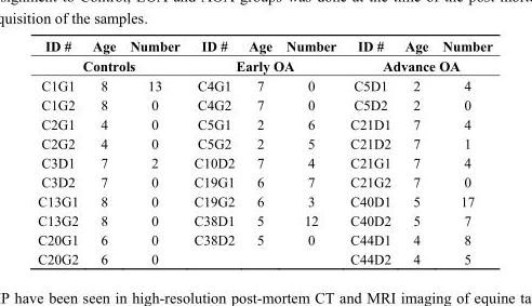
<table><thead><tr><td>ID #</td><td>Age</td><td>Number</td><td>ID #</td><td>Age</td><td>Number</td><td>ID #</td><td>Age</td><td>Number</td></tr><tr><td colspan="3">Controls</td><td colspan="3">Early OA</td><td colspan="3">Advance OA</td></tr></thead><tbody><tr><td>C1G1</td><td>8</td><td>13</td><td>C4G1</td><td>7</td><td>0</td><td>C5D1</td><td>2</td><td>4</td></tr><tr><td>C1G2</td><td>8</td><td>0</td><td>C4G2</td><td>7</td><td>0</td><td>C5D2</td><td>2</td><td>0</td></tr><tr><td>C2G1</td><td>4</td><td>0</td><td>C5G1</td><td>2</td><td>6</td><td>C21D1</td><td>7</td><td>4</td></tr><tr><td>C2G2</td><td>4</td><td>0</td><td>C5G2</td><td>2</td><td>5</td><td>C21D2</td><td>7</td><td>1</td></tr><tr><td>C3D1</td><td>7</td><td>2</td><td>C10D2</td><td>7</td><td>4</td><td>C21G1</td><td>7</td><td>4</td></tr><tr><td>C3D2</td><td>7</td><td>0</td><td>C19G1</td><td>6</td><td>7</td><td>C21G2</td><td>7</td><td>0</td></tr><tr><td>C13G1</td><td>8</td><td>0</td><td>C19G2</td><td>6</td><td>3</td><td>C40D1</td><td>5</td><td>17</td></tr><tr><td>C13G2</td><td>8</td><td>0</td><td>C38D1</td><td>5</td><td>12</td><td>C40D2</td><td>5</td><td>7</td></tr><tr><td>C20G1</td><td>6</td><td>0</td><td>C38D2</td><td>5</td><td>0</td><td>C44D1</td><td>4</td><td>8</td></tr><tr><td>C20G2</td><td>6</td><td>0</td><td></td><td></td><td></td><td>C44D2</td><td>4</td><td>5</td></tr></tbody></table>